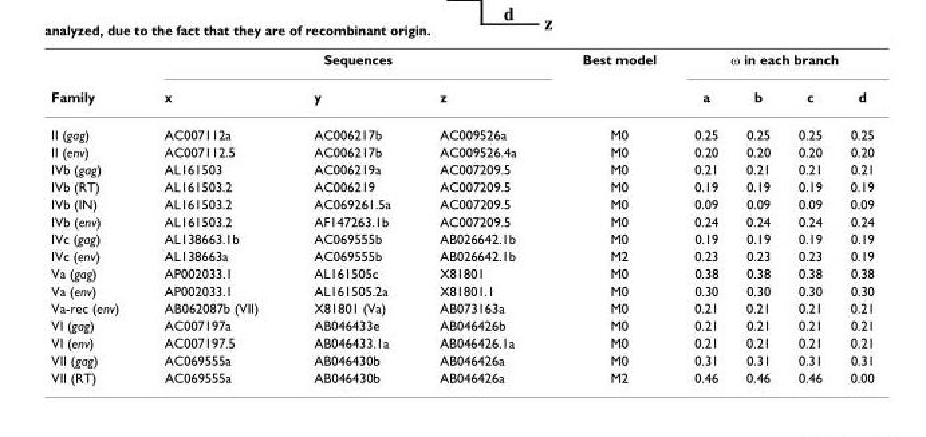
<table><thead><tr><td rowspan="2">Family</td><td colspan="3">Sequences</td><td rowspan="2">Best model</td><td colspan="4">ω in each branch</td></tr><tr><td>x</td><td>y</td><td>z</td><td>a</td><td>b</td><td>c</td><td>d</td></tr></thead><tbody><tr><td>II (gag)</td><td>AC007112a</td><td>AC006217b</td><td>AC009526a</td><td>M0</td><td>0.25</td><td>0.25</td><td>0.25</td><td>0.25</td></tr><tr><td>II (env)</td><td>AC007112.5</td><td>AC006217b</td><td>AC009526.4a</td><td>M0</td><td>0.20</td><td>0.20</td><td>0.20</td><td>0.20</td></tr><tr><td>IVb (gag)</td><td>AL161503</td><td>AC006219a</td><td>AC007209.5</td><td>M0</td><td>0.21</td><td>0.21</td><td>0.21</td><td>0.21</td></tr><tr><td>IVb (RT)</td><td>AL161503.2</td><td>AC006219</td><td>AC007209.5</td><td>M0</td><td>0.19</td><td>0.19</td><td>0.19</td><td>0.19</td></tr><tr><td>IVb (IN)</td><td>AL161503.2</td><td>AC069261.5a</td><td>AC007209.5</td><td>M0</td><td>0.09</td><td>0.09</td><td>0.09</td><td>0.09</td></tr><tr><td>IVb (env)</td><td>AL161503.2</td><td>AF147263.1b</td><td>AC007209.5</td><td>M0</td><td>0.24</td><td>0.24</td><td>0.24</td><td>0.24</td></tr><tr><td>IVc (gag)</td><td>AL138663.1b</td><td>AC069555b</td><td>AB026642.1b</td><td>M0</td><td>0.19</td><td>0.19</td><td>0.19</td><td>0.19</td></tr><tr><td>IVc (env)</td><td>AL138663a</td><td>AC069555b</td><td>AB026642.1b</td><td>M2</td><td>0.23</td><td>0.23</td><td>0.23</td><td>0.19</td></tr><tr><td>Va (gag)</td><td>AP002033.1</td><td>AL161505c</td><td>X81801</td><td>M0</td><td>0.38</td><td>0.38</td><td>0.38</td><td>0.38</td></tr><tr><td>Va (env)</td><td>AP002033.1</td><td>AL161505.2a</td><td>X81801.1</td><td>M0</td><td>0.30</td><td>0.30</td><td>0.30</td><td>0.30</td></tr><tr><td>Va-rec (env)</td><td>AB062087b (VII)</td><td>X81801 (Va)</td><td>AB073163a</td><td>M0</td><td>0.21</td><td>0.21</td><td>0.21</td><td>0.21</td></tr><tr><td>VI (gag)</td><td>AC007197a</td><td>AB046433e</td><td>AB046426b</td><td>M0</td><td>0.21</td><td>0.21</td><td>0.21</td><td>0.21</td></tr><tr><td>VI (env)</td><td>AC007197.5</td><td>AB046433.1a</td><td>AB046426.1a</td><td>M0</td><td>0.21</td><td>0.21</td><td>0.21</td><td>0.21</td></tr><tr><td>VII (gag)</td><td>AC069555a</td><td>AB046430b</td><td>AB046426a</td><td>M0</td><td>0.31</td><td>0.31</td><td>0.31</td><td>0.31</td></tr><tr><td>VII (RT)</td><td>AC069555a</td><td>AB046430b</td><td>AB046426a</td><td>M2</td><td>0.46</td><td>0.46</td><td>0.46</td><td>0.00</td></tr></tbody></table>